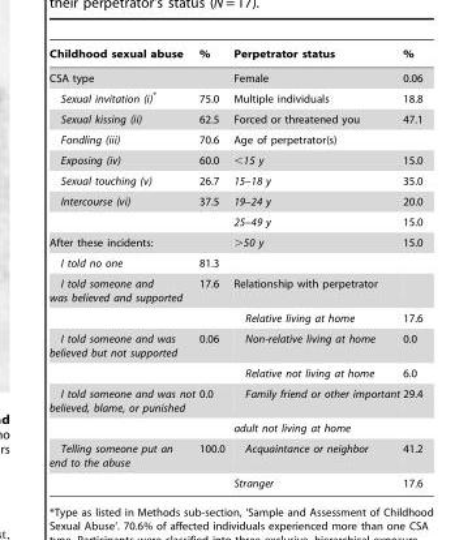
<table><thead><tr><td>Childhood sexual abuse</td><td>%</td><td>Perpetrator status</td><td>%</td></tr></thead><tbody><tr><td>CSA type</td><td></td><td>Female</td><td>0.06</td></tr><tr><td>Sexual invitation (i)*</td><td>75.0</td><td>Multiple individuals</td><td>18.8</td></tr><tr><td>Sexual kissing (ii)</td><td>62.5</td><td>Forced or threatened you</td><td>47.1</td></tr><tr><td>Fondling (iii)</td><td>70.6</td><td>Age of perpetrator(s)</td><td></td></tr><tr><td>Exposing (iv)</td><td>60.0</td><td>&lt;15 y</td><td>15.0</td></tr><tr><td>Sexual touching (v)</td><td>26.7</td><td>15–18 y</td><td>35.0</td></tr><tr><td rowspan="2">Intercourse (vi)</td><td>37.5</td><td>19–24 y</td><td>20.0</td></tr><tr><td></td><td>25–49 y</td><td>15.0</td></tr><tr><td>After these incidents:</td><td></td><td>&gt;50 y</td><td>15.0</td></tr><tr><td>I told no one</td><td>81.3</td><td></td><td></td></tr><tr><td rowspan="2">I told someone and was believed and supported</td><td>17.6</td><td>Relationship with perpetrator</td><td></td></tr><tr><td></td><td>Relative living at home</td><td>17.6</td></tr><tr><td rowspan="2">I told someone and was believed but not supported</td><td>0.06</td><td>Non-relative living at home</td><td>0.0</td></tr><tr><td></td><td>Relative not living at home</td><td>6.0</td></tr><tr><td rowspan="2">I told someone and was not believed, blame, or punished</td><td>0.0</td><td>Family friend or other important</td><td>29.4</td></tr><tr><td></td><td>adult not living at home</td><td></td></tr><tr><td rowspan="2">Telling someone put an end to the abuse</td><td>100.0</td><td>Acquaintance or neighbor</td><td>41.2</td></tr><tr><td></td><td>Stranger</td><td>17.6</td></tr></tbody></table>